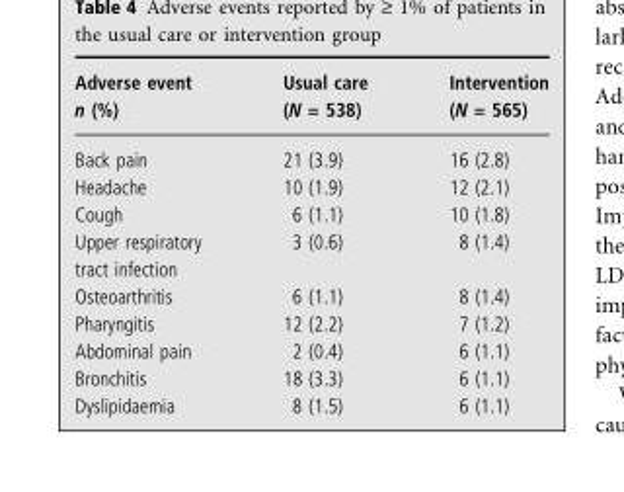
<table><thead><tr><td>Adverse event n (%)</td><td>Usual care (N = 538)</td><td>Intervention (N = 565)</td></tr></thead><tbody><tr><td>Back pain</td><td>21 (3.9)</td><td>16 (2.8)</td></tr><tr><td>Headache</td><td>10 (1.9)</td><td>12 (2.1)</td></tr><tr><td>Cough</td><td>6 (1.1)</td><td>10 (1.8)</td></tr><tr><td>Upper respiratory tract infection</td><td>3 (0.6)</td><td>8 (1.4)</td></tr><tr><td>Osteoarthritis</td><td>6 (1.1)</td><td>8 (1.4)</td></tr><tr><td>Pharyngitis</td><td>12 (2.2)</td><td>7 (1.2)</td></tr><tr><td>Abdominal pain</td><td>2 (0.4)</td><td>6 (1.1)</td></tr><tr><td>Bronchitis</td><td>18 (3.3)</td><td>6 (1.1)</td></tr><tr><td>Dyslipidaemia</td><td>8 (1.5)</td><td>6 (1.1)</td></tr></tbody></table>